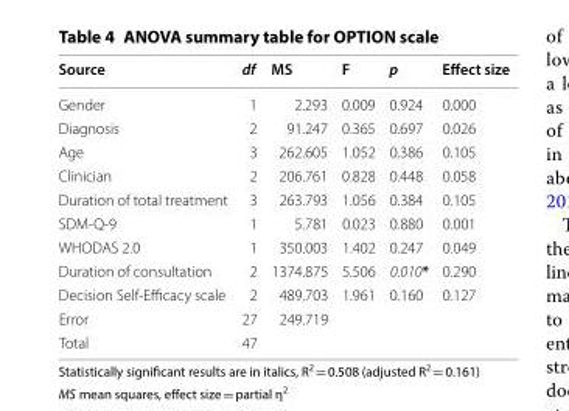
<table><thead><tr><td>Source</td><td>df</td><td>MS</td><td>F</td><td>p</td><td>Effect size</td></tr></thead><tbody><tr><td>Gender</td><td>1</td><td>2.293</td><td>0.009</td><td>0.924</td><td>0.000</td></tr><tr><td>Diagnosis</td><td>2</td><td>91.247</td><td>0.365</td><td>0.697</td><td>0.026</td></tr><tr><td>Age</td><td>3</td><td>262.605</td><td>1.052</td><td>0.386</td><td>0.105</td></tr><tr><td>Clinician</td><td>2</td><td>206.761</td><td>0.828</td><td>0.448</td><td>0.058</td></tr><tr><td>Duration of total treatment</td><td>3</td><td>263.793</td><td>1.056</td><td>0.384</td><td>0.105</td></tr><tr><td>SDM-Q-9</td><td>1</td><td>5.781</td><td>0.023</td><td>0.880</td><td>0.001</td></tr><tr><td>WHODAS 2.0</td><td>1</td><td>350.003</td><td>1.402</td><td>0.247</td><td>0.049</td></tr><tr><td>Duration of consultation</td><td>2</td><td>1374.875</td><td>5.506</td><td>0.010*</td><td>0.290</td></tr><tr><td>Decision Self-Efficacy scale</td><td>2</td><td>489.703</td><td>1.961</td><td>0.160</td><td>0.127</td></tr><tr><td>Error</td><td>27</td><td>249.719</td><td></td><td></td><td></td></tr><tr><td>Total</td><td>47</td><td></td><td></td><td></td><td></td></tr></tbody></table>